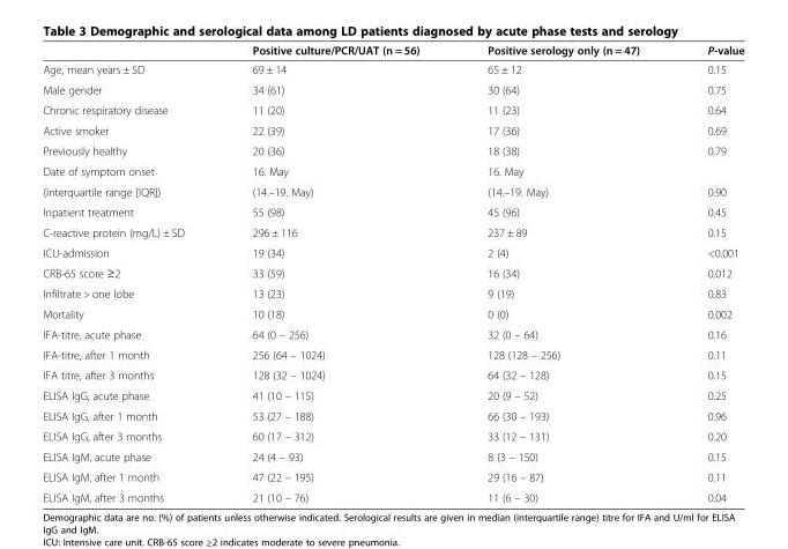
<table><thead><tr><td></td><td>Positive culture/PCR/UAT (n = 56)</td><td>Positive serology only (n = 47)</td><td>P-value</td></tr></thead><tbody><tr><td>Age, mean years ± SD</td><td>69 ± 14</td><td>65 ± 12</td><td>0.15</td></tr><tr><td>Male gender</td><td>34 (61)</td><td>30 (64)</td><td>0.75</td></tr><tr><td>Chronic respiratory disease</td><td>11 (20)</td><td>11 (23)</td><td>0.64</td></tr><tr><td>Active smoker</td><td>22 (39)</td><td>17 (36)</td><td>0.69</td></tr><tr><td>Previously healthy</td><td>20 (36)</td><td>18 (38)</td><td>0.79</td></tr><tr><td>Date of symptom onset</td><td>16. May</td><td>16. May</td><td></td></tr><tr><td>(interquartile range [IQR])</td><td>(14.–19. May)</td><td>(14.–19. May)</td><td>0.90</td></tr><tr><td>Inpatient treatment</td><td>55 (98)</td><td>45 (96)</td><td>0.45</td></tr><tr><td>C-reactive protein (mg/L) ± SD</td><td>296 ± 116</td><td>237 ± 89</td><td>0.15</td></tr><tr><td>ICU-admission</td><td>19 (34)</td><td>2 (4)</td><td>&lt;0.001</td></tr><tr><td>CRB-65 score ≥2</td><td>33 (59)</td><td>16 (34)</td><td>0.012</td></tr><tr><td>Infiltrate &gt; one lobe</td><td>13 (23)</td><td>9 (19)</td><td>0.83</td></tr><tr><td>Mortality</td><td>10 (18)</td><td>0 (0)</td><td>0.002</td></tr><tr><td>IFA-titre, acute phase</td><td>64 (0 – 256)</td><td>32 (0 – 64)</td><td>0.16</td></tr><tr><td>IFA-titre, after 1 month</td><td>256 (64 – 1024)</td><td>128 (128 – 256)</td><td>0.11</td></tr><tr><td>IFA titre, after 3 months</td><td>128 (32 – 1024)</td><td>64 (32 – 128)</td><td>0.15</td></tr><tr><td>ELISA IgG, acute phase</td><td>41 (10 – 115)</td><td>20 (9 – 52)</td><td>0.25</td></tr><tr><td>ELISA IgG, after 1 month</td><td>53 (27 – 188)</td><td>66 (30 – 193)</td><td>0.96</td></tr><tr><td>ELISA IgG, after 3 months</td><td>60 (17 – 312)</td><td>33 (12 – 131)</td><td>0.20</td></tr><tr><td>ELISA IgM, acute phase</td><td>24 (4 – 93)</td><td>8 (3 – 150)</td><td>0.15</td></tr><tr><td>ELISA IgM, after 1 month</td><td>47 (22 – 195)</td><td>29 (16 – 87)</td><td>0.11</td></tr><tr><td>ELISA IgM, after 3 months</td><td>21 (10 – 76)</td><td>11 (6 – 30)</td><td>0.04</td></tr></tbody></table>